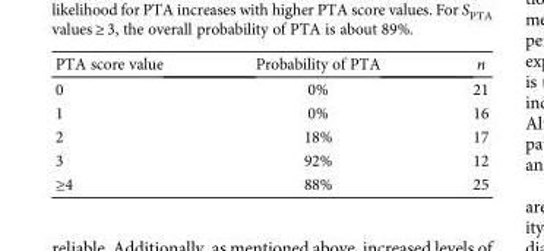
<table><thead><tr><td>PTA score value</td><td>Probability of PTA</td><td>n</td></tr></thead><tbody><tr><td>0</td><td>0%</td><td>21</td></tr><tr><td>1</td><td>0%</td><td>16</td></tr><tr><td>2</td><td>18%</td><td>17</td></tr><tr><td>3</td><td>92%</td><td>12</td></tr><tr><td>≥4</td><td>88%</td><td>25</td></tr></tbody></table>